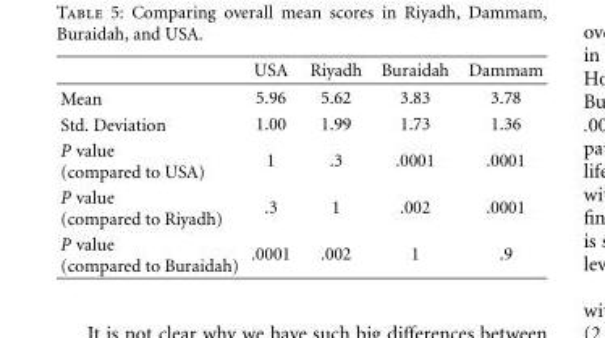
<table><thead><tr><td></td><td>USA</td><td>Riyadh</td><td>Buraidah</td><td>Dammam</td></tr></thead><tbody><tr><td>Mean</td><td>5.96</td><td>5.62</td><td>3.83</td><td>3.78</td></tr><tr><td>Std. Deviation</td><td>1.00</td><td>1.99</td><td>1.73</td><td>1.36</td></tr><tr><td>P value (compared to USA)</td><td>1</td><td>.3</td><td>.0001</td><td>.0001</td></tr><tr><td>P value (compared to Riyadh)</td><td>.3</td><td>1</td><td>.002</td><td>.0001</td></tr><tr><td>P value (compared to Buraidah)</td><td>.0001</td><td>.002</td><td>1</td><td>.9</td></tr></tbody></table>